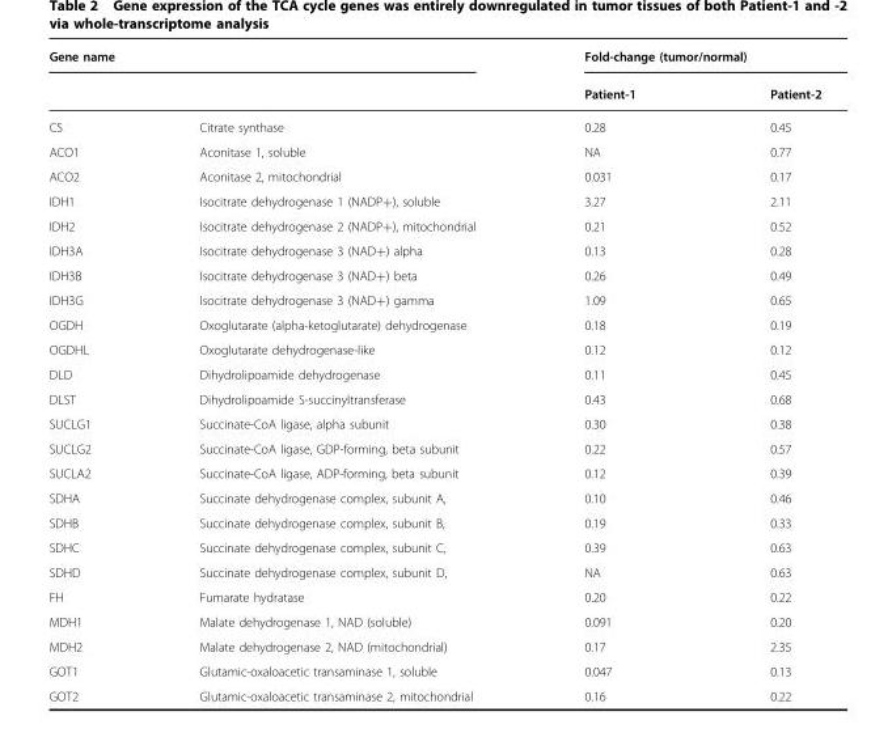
<table><thead><tr><td colspan="2">Gene name</td><td colspan="2">Fold-change (tumor/normal)</td></tr><tr><td></td><td></td><td>Patient-1</td><td>Patient-2</td></tr></thead><tbody><tr><td>CS</td><td>Citrate synthase</td><td>0.28</td><td>0.45</td></tr><tr><td>ACO1</td><td>Aconitase 1, soluble</td><td>NA</td><td>0.77</td></tr><tr><td>ACO2</td><td>Aconitase 2, mitochondrial</td><td>0.031</td><td>0.17</td></tr><tr><td>IDH1</td><td>Isocitrate dehydrogenase 1 (NADP+), soluble</td><td>3.27</td><td>2.11</td></tr><tr><td>IDH2</td><td>Isocitrate dehydrogenase 2 (NADP+), mitochondrial</td><td>0.21</td><td>0.52</td></tr><tr><td>IDH3A</td><td>Isocitrate dehydrogenase 3 (NAD+) alpha</td><td>0.13</td><td>0.28</td></tr><tr><td>IDH3B</td><td>Isocitrate dehydrogenase 3 (NAD+) beta</td><td>0.26</td><td>0.49</td></tr><tr><td>IDH3G</td><td>Isocitrate dehydrogenase 3 (NAD+) gamma</td><td>1.09</td><td>0.65</td></tr><tr><td>OGDH</td><td>Oxoglutarate (alpha-ketoglutarate) dehydrogenase</td><td>0.18</td><td>0.19</td></tr><tr><td>OGDHL</td><td>Oxoglutarate dehydrogenase-like</td><td>0.12</td><td>0.12</td></tr><tr><td>DLD</td><td>Dihydrolipoamide dehydrogenase</td><td>0.11</td><td>0.45</td></tr><tr><td>DLST</td><td>Dihydrolipoamide S-succinyltransferase</td><td>0.43</td><td>0.68</td></tr><tr><td>SUCLG1</td><td>Succinate-CoA ligase, alpha subunit</td><td>0.30</td><td>0.38</td></tr><tr><td>SUCLG2</td><td>Succinate-CoA ligase, GDP-forming, beta subunit</td><td>0.22</td><td>0.57</td></tr><tr><td>SUCLA2</td><td>Succinate-CoA ligase, ADP-forming, beta subunit</td><td>0.12</td><td>0.39</td></tr><tr><td>SDHA</td><td>Succinate dehydrogenase complex, subunit A,</td><td>0.10</td><td>0.46</td></tr><tr><td>SDHB</td><td>Succinate dehydrogenase complex, subunit B,</td><td>0.19</td><td>0.33</td></tr><tr><td>SDHC</td><td>Succinate dehydrogenase complex, subunit C,</td><td>0.39</td><td>0.63</td></tr><tr><td>SDHD</td><td>Succinate dehydrogenase complex, subunit D,</td><td>NA</td><td>0.63</td></tr><tr><td>FH</td><td>Fumarate hydratase</td><td>0.20</td><td>0.22</td></tr><tr><td>MDH1</td><td>Malate dehydrogenase 1, NAD (soluble)</td><td>0.091</td><td>0.20</td></tr><tr><td>MDH2</td><td>Malate dehydrogenase 2, NAD (mitochondrial)</td><td>0.17</td><td>2.35</td></tr><tr><td>GOT1</td><td>Glutamic-oxaloacetic transaminase 1, soluble</td><td>0.047</td><td>0.13</td></tr><tr><td>GOT2</td><td>Glutamic-oxaloacetic transaminase 2, mitochondrial</td><td>0.16</td><td>0.22</td></tr></tbody></table>